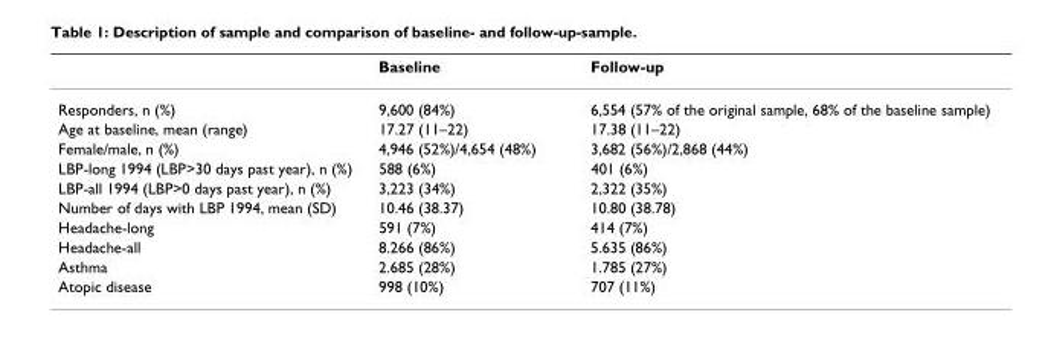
<table><thead><tr><td></td><td>Baseline</td><td>Follow-up</td></tr></thead><tbody><tr><td>Responders, n (%)</td><td>9,600 (84%)</td><td>6,554 (57% of the original sample, 68% of the baseline sample)</td></tr><tr><td>Age at baseline, mean (range)</td><td>17.27 (11–22)</td><td>17.38 (11–22)</td></tr><tr><td>Female/male, n (%)</td><td>4,946 (52%)/4,654 (48%)</td><td>3,682 (56%)/2,868 (44%)</td></tr><tr><td>LBP-long 1994 (LBP&gt;30 days past year), n (%)</td><td>588 (6%)</td><td>401 (6%)</td></tr><tr><td>LBP-all 1994 (LBP&gt;0 days past year), n (%)</td><td>3,223 (34%)</td><td>2,322 (35%)</td></tr><tr><td>Number of days with LBP 1994, mean (SD)</td><td>10.46 (38.37)</td><td>10.80 (38.78)</td></tr><tr><td>Headache-long</td><td>591 (7%)</td><td>414 (7%)</td></tr><tr><td>Headache-all</td><td>8.266 (86%)</td><td>5.635 (86%)</td></tr><tr><td>Asthma</td><td>2.685 (28%)</td><td>1.785 (27%)</td></tr><tr><td>Atopic disease</td><td>998 (10%)</td><td>707 (11%)</td></tr></tbody></table>